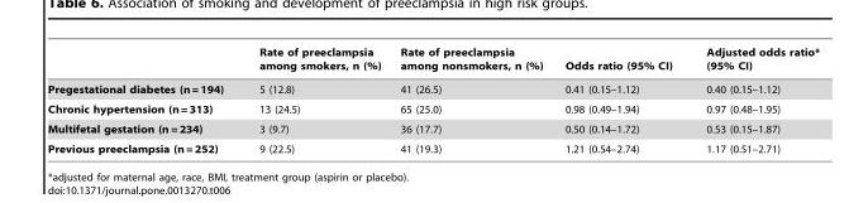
<table><thead><tr><td></td><td>Rate of preeclampsia among smokers, n (%)</td><td>Rate of preeclampsia among nonsmokers, n (%)</td><td>Odds ratio (95% CI)</td><td>Adjusted odds ratio* (95% CI)</td></tr></thead><tbody><tr><td>Pregestational diabetes (n = 194)</td><td>5 (12.8)</td><td>41 (26.5)</td><td>0.41 (0.15–1.12)</td><td>0.40 (0.15–1.12)</td></tr><tr><td>Chronic hypertension (n = 313)</td><td>13 (24.5)</td><td>65 (25.0)</td><td>0.98 (0.49–1.94)</td><td>0.97 (0.48–1.95)</td></tr><tr><td>Multifetal gestation (n = 234)</td><td>3 (9.7)</td><td>36 (17.7)</td><td>0.50 (0.14–1.72)</td><td>0.53 (0.15–1.87)</td></tr><tr><td>Previous preeclampsia (n = 252)</td><td>9 (22.5)</td><td>41 (19.3)</td><td>1.21 (0.54–2.74)</td><td>1.17 (0.51–2.71)</td></tr></tbody></table>